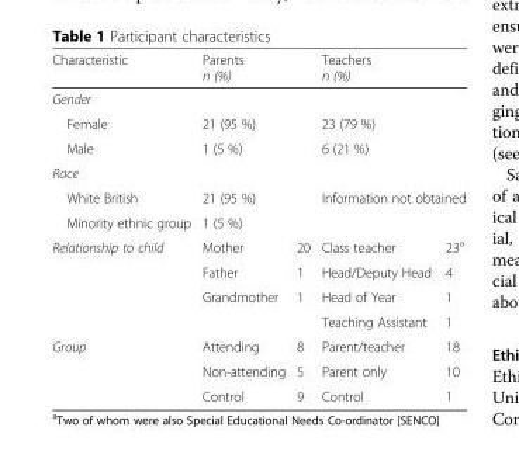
<table><thead><tr><td>Characteristic</td><td>Parents n (%)</td><td></td><td>Teachers n (%)</td><td></td></tr></thead><tbody><tr><td colspan="5">Gender</td></tr><tr><td>Female</td><td colspan="2">21 (95 %)</td><td colspan="2">23 (79 %)</td></tr><tr><td>Male</td><td colspan="2">1 (5 %)</td><td colspan="2">6 (21 %)</td></tr><tr><td colspan="5">Race</td></tr><tr><td>White British</td><td colspan="2">21 (95 %)</td><td colspan="2">Information not obtained</td></tr><tr><td>Minority ethnic group</td><td colspan="2">1 (5 %)</td><td colspan="2"></td></tr><tr><td rowspan="4">Relationship to child</td><td>Mother</td><td>20</td><td>Class teacher</td><td>23<sup>a</sup></td></tr><tr><td>Father</td><td>1</td><td>Head/Deputy Head</td><td>4</td></tr><tr><td>Grandmother</td><td>1</td><td>Head of Year</td><td>1</td></tr><tr><td></td><td></td><td>Teaching Assistant</td><td>1</td></tr><tr><td rowspan="3">Group</td><td>Attending</td><td>8</td><td>Parent/teacher</td><td>18</td></tr><tr><td>Non-attending</td><td>5</td><td>Parent only</td><td>10</td></tr><tr><td>Control</td><td>9</td><td>Control</td><td>1</td></tr></tbody></table>